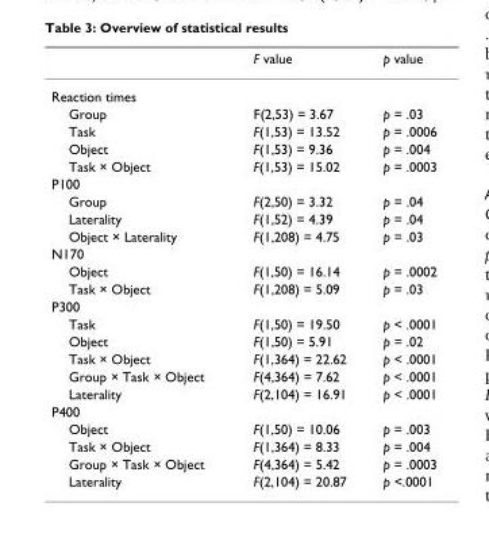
<table><thead><tr><td></td><td>F value</td><td>p value</td></tr></thead><tbody><tr><td colspan="3">Reaction times</td></tr><tr><td>Group</td><td>F(2,53) = 3.67</td><td>p = .03</td></tr><tr><td>Task</td><td>F(1,53) = 13.52</td><td>p = .0006</td></tr><tr><td>Object</td><td>F(1,53) = 9.36</td><td>p = .004</td></tr><tr><td>Task × Object</td><td>F(1,53) = 15.02</td><td>p = .0003</td></tr><tr><td colspan="3">P100</td></tr><tr><td>Group</td><td>F(2,50) = 3.32</td><td>p = .04</td></tr><tr><td>Laterality</td><td>F(1,52) = 4.39</td><td>p = .04</td></tr><tr><td>Object × Laterality</td><td>F(1,208) = 4.75</td><td>p = .03</td></tr><tr><td colspan="3">N170</td></tr><tr><td>Object</td><td>F(1,50) = 16.14</td><td>p = .0002</td></tr><tr><td>Task × Object</td><td>F(1,208) = 5.09</td><td>p = .03</td></tr><tr><td colspan="3">P300</td></tr><tr><td>Task</td><td>F(1,50) = 19.50</td><td>p &lt; .0001</td></tr><tr><td>Object</td><td>F(1,50) = 5.91</td><td>p = .02</td></tr><tr><td>Task × Object</td><td>F(1,364) = 22.62</td><td>p &lt; .0001</td></tr><tr><td>Group × Task × Object</td><td>F(4,364) = 7.62</td><td>p &lt; .0001</td></tr><tr><td>Laterality</td><td>F(2,104) = 16.91</td><td>p &lt; .0001</td></tr><tr><td colspan="3">P400</td></tr><tr><td>Object</td><td>F(1,50) = 10.06</td><td>p = .003</td></tr><tr><td>Task × Object</td><td>F(1,364) = 8.33</td><td>p = .004</td></tr><tr><td>Group × Task × Object</td><td>F(4,364) = 5.42</td><td>p = .0003</td></tr><tr><td>Laterality</td><td>F(2,104) = 20.87</td><td>p &lt;.0001</td></tr></tbody></table>